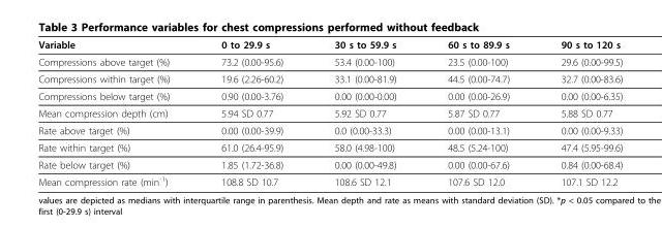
<table><thead><tr><td>Variable</td><td>0 to 29.9 s</td><td>30 s to 59.9 s</td><td>60 s to 89.9 s</td><td>90 s to 120 s</td></tr></thead><tbody><tr><td>Compressions above target (%)</td><td>73.2 (0.00-95.6)</td><td>53.4 (0.00-100)</td><td>23.5 (0.00-100)</td><td>29.6 (0.00-99.5)</td></tr><tr><td>Compressions within target (%)</td><td>19.6 (2.26-60.2)</td><td>33.1 (0.00-81.9)</td><td>44.5 (0.00-74.7)</td><td>32.7 (0.00-83.6)</td></tr><tr><td>Compressions below target (%)</td><td>0.90 (0.00-3.76)</td><td>0.00 (0.00-0.00)</td><td>0.00 (0.00-26.9)</td><td>0.00 (0.00-6.35)</td></tr><tr><td>Mean compression depth (cm)</td><td>5.94 SD 0.77</td><td>5.92 SD 0.77</td><td>5.87 SD 0.77</td><td>5.88 SD 0.77</td></tr><tr><td>Rate above target (%)</td><td>0.00 (0.00-39.9)</td><td>0.0 (0.00-33.3)</td><td>0.00 (0.00-13.1)</td><td>0.00 (0.00-9.33)</td></tr><tr><td>Rate within target (%)</td><td>61.0 (26.4-95.9)</td><td>58.0 (4.98-100)</td><td>48.5 (5.24-100)</td><td>47.4 (5.95-99.6)</td></tr><tr><td>Rate below target (%)</td><td>1.85 (1.72-36.8)</td><td>0.00 (0.00-49.8)</td><td>0.00 (0.00-67.6)</td><td>0.84 (0.00-68.4)</td></tr><tr><td>Mean compression rate (min<sup>-1</sup>)</td><td>108.8 SD 10.7</td><td>108.6 SD 12.1</td><td>107.6 SD 12.0</td><td>107.1 SD 12.2</td></tr></tbody></table>